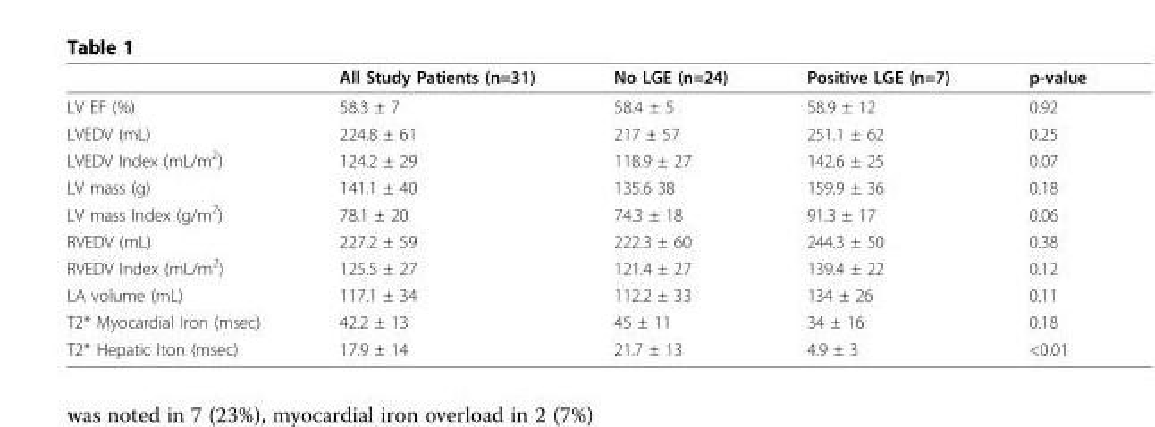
<table><thead><tr><td></td><td>All Study Patients (n=31)</td><td>No LGE (n=24)</td><td>Positive LGE (n=7)</td><td>p-value</td></tr></thead><tbody><tr><td>LV EF (%)</td><td>58.3 ± 7</td><td>58.4 ± 5</td><td>58.9 ± 12</td><td>0.92</td></tr><tr><td>LVEDV (mL)</td><td>224.8 ± 61</td><td>217 ± 57</td><td>251.1 ± 62</td><td>0.25</td></tr><tr><td>LVEDV Index (mL/m<sup>2</sup>)</td><td>124.2 ± 29</td><td>118.9 ± 27</td><td>142.6 ± 25</td><td>0.07</td></tr><tr><td>LV mass (g)</td><td>141.1 ± 40</td><td>135.6 38</td><td>159.9 ± 36</td><td>0.18</td></tr><tr><td>LV mass Index (g/m<sup>2</sup>)</td><td>78.1 ± 20</td><td>74.3 ± 18</td><td>91.3 ± 17</td><td>0.06</td></tr><tr><td>RVEDV (mL)</td><td>227.2 ± 59</td><td>222.3 ± 60</td><td>244.3 ± 50</td><td>0.38</td></tr><tr><td>RVEDV Index (mL/m<sup>2</sup>)</td><td>125.5 ± 27</td><td>121.4 ± 27</td><td>139.4 ± 22</td><td>0.12</td></tr><tr><td>LA volume (mL)</td><td>117.1 ± 34</td><td>112.2 ± 33</td><td>134 ± 26</td><td>0.11</td></tr><tr><td>T2* Myocardial Iron (msec)</td><td>42.2 ± 13</td><td>45 ± 11</td><td>34 ± 16</td><td>0.18</td></tr><tr><td>T2* Hepatic Iton (msec)</td><td>17.9 ± 14</td><td>21.7 ± 13</td><td>4.9 ± 3</td><td>&lt;0.01</td></tr></tbody></table>